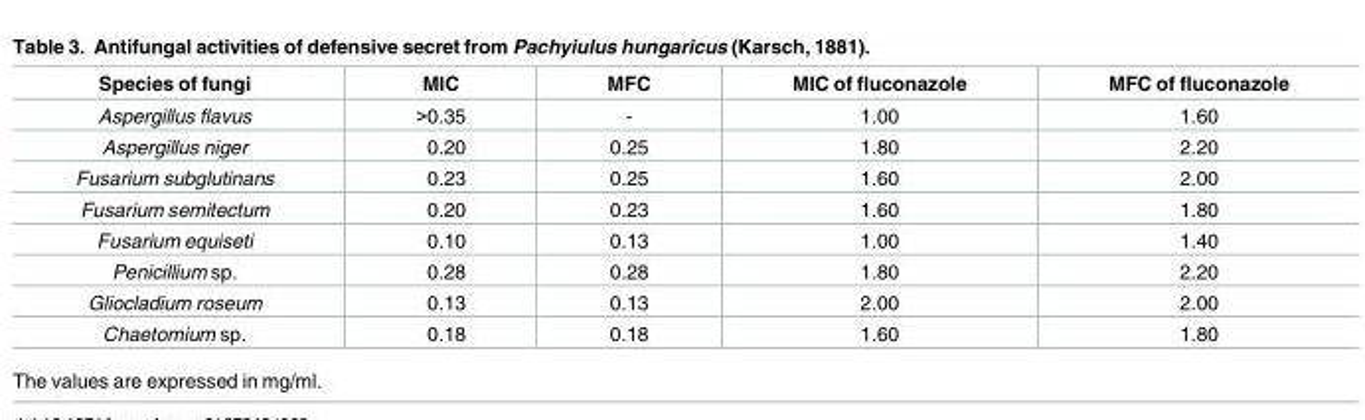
<table><thead><tr><td>Species of fungi</td><td>MIC</td><td>MFC</td><td>MIC of fluconazole</td><td>MFC of fluconazole</td></tr></thead><tbody><tr><td>Aspergillus flavus</td><td>&gt;0.35</td><td>-</td><td>1.00</td><td>1.60</td></tr><tr><td>Aspergillus niger</td><td>0.20</td><td>0.25</td><td>1.80</td><td>2.20</td></tr><tr><td>Fusarium subglutinans</td><td>0.23</td><td>0.25</td><td>1.60</td><td>2.00</td></tr><tr><td>Fusarium semitectum</td><td>0.20</td><td>0.23</td><td>1.60</td><td>1.80</td></tr><tr><td>Fusarium equiseti</td><td>0.10</td><td>0.13</td><td>1.00</td><td>1.40</td></tr><tr><td>Penicillium sp.</td><td>0.28</td><td>0.28</td><td>1.80</td><td>2.20</td></tr><tr><td>Gliocladium roseum</td><td>0.13</td><td>0.13</td><td>2.00</td><td>2.00</td></tr><tr><td>Chaetomium sp.</td><td>0.18</td><td>0.18</td><td>1.60</td><td>1.80</td></tr></tbody></table>